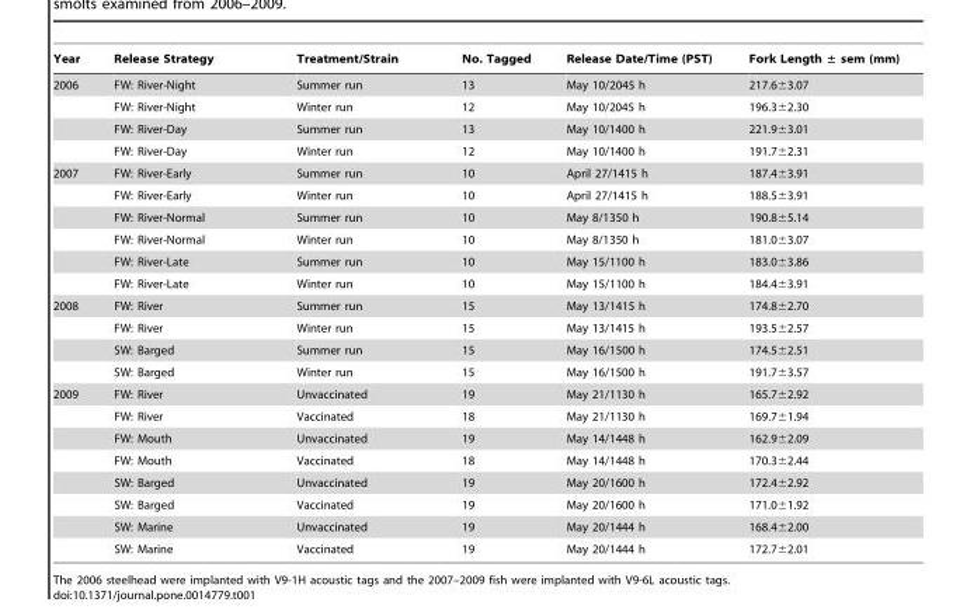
<table><thead><tr><td>Year</td><td>Release Strategy</td><td>Treatment/Strain</td><td>No. Tagged</td><td>Release Date/Time (PST)</td><td>Fork Length ± sem (mm)</td></tr></thead><tbody><tr><td rowspan="4">2006</td><td>FW: River-Night</td><td>Summer run</td><td>13</td><td>May 10/2045 h</td><td>217.6±3.07</td></tr><tr><td>FW: River-Night</td><td>Winter run</td><td>12</td><td>May 10/2045 h</td><td>196.3±2.30</td></tr><tr><td>FW: River-Day</td><td>Summer run</td><td>13</td><td>May 10/1400 h</td><td>221.9±3.01</td></tr><tr><td>FW: River-Day</td><td>Winter run</td><td>12</td><td>May 10/1400 h</td><td>191.7±2.31</td></tr><tr><td rowspan="6">2007</td><td>FW: River-Early</td><td>Summer run</td><td>10</td><td>April 27/1415 h</td><td>187.4±3.91</td></tr><tr><td>FW: River-Early</td><td>Winter run</td><td>10</td><td>April 27/1415 h</td><td>188.5±3.91</td></tr><tr><td>FW: River-Normal</td><td>Summer run</td><td>10</td><td>May 8/1350 h</td><td>190.8±5.14</td></tr><tr><td>FW: River-Normal</td><td>Winter run</td><td>10</td><td>May 8/1350 h</td><td>181.0±3.07</td></tr><tr><td>FW: River-Late</td><td>Summer run</td><td>10</td><td>May 15/1100 h</td><td>183.0±3.86</td></tr><tr><td>FW: River-Late</td><td>Winter run</td><td>10</td><td>May 15/1100 h</td><td>184.4±3.91</td></tr><tr><td rowspan="4">2008</td><td>FW: River</td><td>Summer run</td><td>15</td><td>May 13/1415 h</td><td>174.8±2.70</td></tr><tr><td>FW: River</td><td>Winter run</td><td>15</td><td>May 13/1415 h</td><td>193.5±2.57</td></tr><tr><td>SW: Barged</td><td>Summer run</td><td>15</td><td>May 16/1500 h</td><td>174.5±2.51</td></tr><tr><td>SW: Barged</td><td>Winter run</td><td>15</td><td>May 16/1500 h</td><td>191.7±3.57</td></tr><tr><td rowspan="8">2009</td><td>FW: River</td><td>Unvaccinated</td><td>19</td><td>May 21/1130 h</td><td>165.7±2.92</td></tr><tr><td>FW: River</td><td>Vaccinated</td><td>18</td><td>May 21/1130 h</td><td>169.7±1.94</td></tr><tr><td>FW: Mouth</td><td>Unvaccinated</td><td>19</td><td>May 14/1448 h</td><td>162.9±2.09</td></tr><tr><td>FW: Mouth</td><td>Vaccinated</td><td>18</td><td>May 14/1448 h</td><td>170.3±2.44</td></tr><tr><td>SW: Barged</td><td>Unvaccinated</td><td>19</td><td>May 20/1600 h</td><td>172.4±2.92</td></tr><tr><td>SW: Barged</td><td>Vaccinated</td><td>19</td><td>May 20/1600 h</td><td>171.0±1.92</td></tr><tr><td>SW: Marine</td><td>Unvaccinated</td><td>19</td><td>May 20/1444 h</td><td>168.4±2.00</td></tr><tr><td>SW: Marine</td><td>Vaccinated</td><td>19</td><td>May 20/1444 h</td><td>172.7±2.01</td></tr></tbody></table>